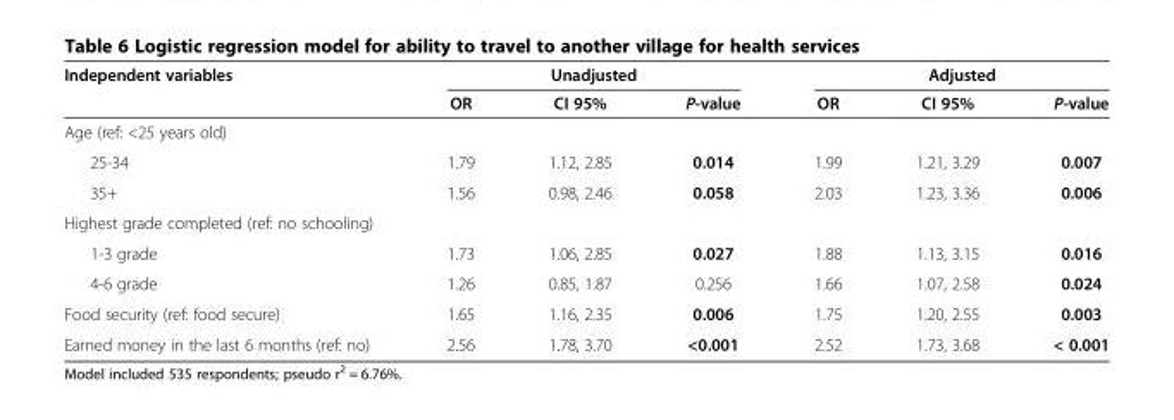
<table><thead><tr><td rowspan="2">Independent variables</td><td colspan="3">Unadjusted</td><td colspan="3">Adjusted</td></tr><tr><td>OR</td><td>CI 95%</td><td>P-value</td><td>OR</td><td>CI 95%</td><td>P-value</td></tr></thead><tbody><tr><td colspan="7">Age (ref: &lt;25 years old)</td></tr><tr><td>25-34</td><td>1.79</td><td>1.12, 2.85</td><td>0.014</td><td>1.99</td><td>1.21, 3.29</td><td>0.007</td></tr><tr><td>35+</td><td>1.56</td><td>0.98, 2.46</td><td>0.058</td><td>2.03</td><td>1.23, 3.36</td><td>0.006</td></tr><tr><td colspan="7">Highest grade completed (ref: no schooling)</td></tr><tr><td>1-3 grade</td><td>1.73</td><td>1.06, 2.85</td><td>0.027</td><td>1.88</td><td>1.13, 3.15</td><td>0.016</td></tr><tr><td>4-6 grade</td><td>1.26</td><td>0.85, 1.87</td><td>0.256</td><td>1.66</td><td>1.07, 2.58</td><td>0.024</td></tr><tr><td>Food security (ref: food secure)</td><td>1.65</td><td>1.16, 2.35</td><td>0.006</td><td>1.75</td><td>1.20, 2.55</td><td>0.003</td></tr><tr><td>Earned money in the last 6 months (ref: no)</td><td>2.56</td><td>1.78, 3.70</td><td>&lt;0.001</td><td>2.52</td><td>1.73, 3.68</td><td>&lt; 0.001</td></tr></tbody></table>